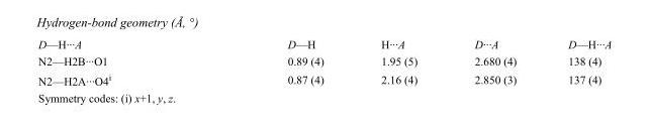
<table><tbody><tr><td>D—H···A</td><td>D—H</td><td>H···A</td><td>D···A</td><td>D—H···A</td></tr><tr><td>N2—H2B···O1</td><td>0.89 (4)</td><td>1.95 (5)</td><td>2.680 (4)</td><td>138 (4)</td></tr><tr><td>N2—H2A···O4<sup>i</sup></td><td>0.87 (4)</td><td>2.16 (4)</td><td>2.850 (3)</td><td>137 (4)</td></tr></tbody></table>